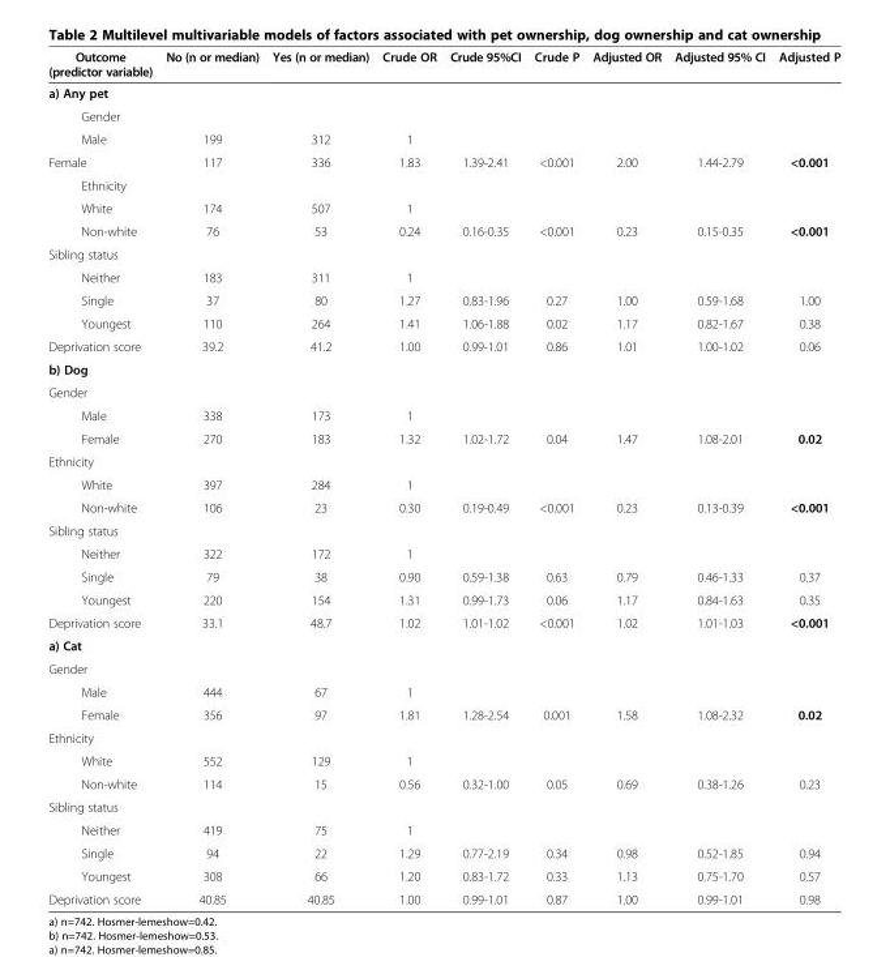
<table><thead><tr><td>Outcome (predictor variable)</td><td>No (n or median)</td><td>Yes (n or median)</td><td>Crude OR</td><td>Crude 95%CI</td><td>Crude P</td><td>Adjusted OR</td><td>Adjusted 95% CI</td><td>Adjusted P</td></tr></thead><tbody><tr><td colspan="9">a) Any pet</td></tr><tr><td colspan="9">Gender</td></tr><tr><td>Male</td><td>199</td><td>312</td><td>1</td><td></td><td></td><td></td><td></td><td></td></tr><tr><td>Female</td><td>117</td><td>336</td><td>1.83</td><td>1.39-2.41</td><td>&lt;0.001</td><td>2.00</td><td>1.44-2.79</td><td>&lt;0.001</td></tr><tr><td colspan="9">Ethnicity</td></tr><tr><td>White</td><td>174</td><td>507</td><td>1</td><td></td><td></td><td></td><td></td><td></td></tr><tr><td>Non-white</td><td>76</td><td>53</td><td>0.24</td><td>0.16-0.35</td><td>&lt;0.001</td><td>0.23</td><td>0.15-0.35</td><td>&lt;0.001</td></tr><tr><td colspan="9">Sibling status</td></tr><tr><td>Neither</td><td>183</td><td>311</td><td>1</td><td></td><td></td><td></td><td></td><td></td></tr><tr><td>Single</td><td>37</td><td>80</td><td>1.27</td><td>0.83-1.96</td><td>0.27</td><td>1.00</td><td>0.59-1.68</td><td>1.00</td></tr><tr><td>Youngest</td><td>110</td><td>264</td><td>1.41</td><td>1.06-1.88</td><td>0.02</td><td>1.17</td><td>0.82-1.67</td><td>0.38</td></tr><tr><td>Deprivation score</td><td>39.2</td><td>41.2</td><td>1.00</td><td>0.99-1.01</td><td>0.86</td><td>1.01</td><td>1.00-1.02</td><td>0.06</td></tr><tr><td colspan="9">b) Dog</td></tr><tr><td colspan="9">Gender</td></tr><tr><td>Male</td><td>338</td><td>173</td><td>1</td><td></td><td></td><td></td><td></td><td></td></tr><tr><td>Female</td><td>270</td><td>183</td><td>1.32</td><td>1.02-1.72</td><td>0.04</td><td>1.47</td><td>1.08-2.01</td><td>0.02</td></tr><tr><td colspan="9">Ethnicity</td></tr><tr><td>White</td><td>397</td><td>284</td><td>1</td><td></td><td></td><td></td><td></td><td></td></tr><tr><td>Non-white</td><td>106</td><td>23</td><td>0.30</td><td>0.19-0.49</td><td>&lt;0.001</td><td>0.23</td><td>0.13-0.39</td><td>&lt;0.001</td></tr><tr><td colspan="9">Sibling status</td></tr><tr><td>Neither</td><td>322</td><td>172</td><td>1</td><td></td><td></td><td></td><td></td><td></td></tr><tr><td>Single</td><td>79</td><td>38</td><td>0.90</td><td>0.59-1.38</td><td>0.63</td><td>0.79</td><td>0.46-1.33</td><td>0.37</td></tr><tr><td>Youngest</td><td>220</td><td>154</td><td>1.31</td><td>0.99-1.73</td><td>0.06</td><td>1.17</td><td>0.84-1.63</td><td>0.35</td></tr><tr><td>Deprivation score</td><td>33.1</td><td>48.7</td><td>1.02</td><td>1.01-1.02</td><td>&lt;0.001</td><td>1.02</td><td>1.01-1.03</td><td>&lt;0.001</td></tr><tr><td colspan="9">a) Cat</td></tr><tr><td colspan="9">Gender</td></tr><tr><td>Male</td><td>444</td><td>67</td><td>1</td><td></td><td></td><td></td><td></td><td></td></tr><tr><td>Female</td><td>356</td><td>97</td><td>1.81</td><td>1.28-2.54</td><td>0.001</td><td>1.58</td><td>1.08-2.32</td><td>0.02</td></tr><tr><td colspan="9">Ethnicity</td></tr><tr><td>White</td><td>552</td><td>129</td><td>1</td><td></td><td></td><td></td><td></td><td></td></tr><tr><td>Non-white</td><td>114</td><td>15</td><td>0.56</td><td>0.32-1.00</td><td>0.05</td><td>0.69</td><td>0.38-1.26</td><td>0.23</td></tr><tr><td colspan="9">Sibling status</td></tr><tr><td>Neither</td><td>419</td><td>75</td><td>1</td><td></td><td></td><td></td><td></td><td></td></tr><tr><td>Single</td><td>94</td><td>22</td><td>1.29</td><td>0.77-2.19</td><td>0.34</td><td>0.98</td><td>0.52-1.85</td><td>0.94</td></tr><tr><td>Youngest</td><td>308</td><td>66</td><td>1.20</td><td>0.83-1.72</td><td>0.33</td><td>1.13</td><td>0.75-1.70</td><td>0.57</td></tr><tr><td>Deprivation score</td><td>40.85</td><td>40.85</td><td>1.00</td><td>0.99-1.01</td><td>0.87</td><td>1.00</td><td>0.99-1.01</td><td>0.98</td></tr></tbody></table>